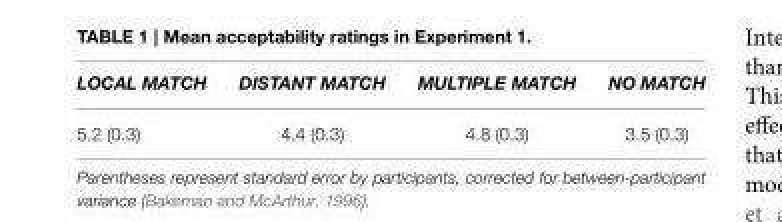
<table><thead><tr><td>LOCAL MATCH</td><td>DISTANT MATCH</td><td>MULTIPLE MATCH</td><td>NO MATCH</td></tr></thead><tbody><tr><td>5.2 (0.3)</td><td>4.4 (0.3)</td><td>4.8 (0.3)</td><td>3.5 (0.3)</td></tr></tbody></table>